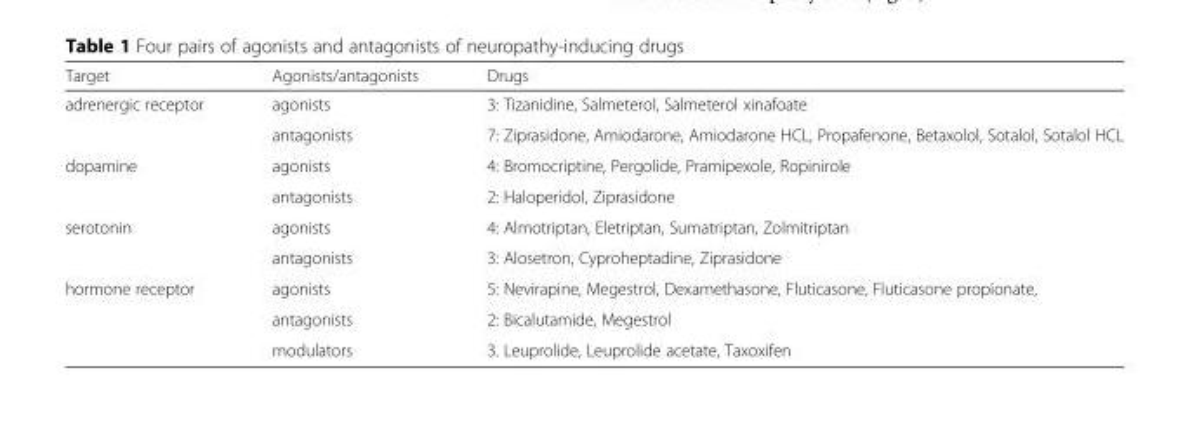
<table><thead><tr><td>Target</td><td>Agonists/antagonists</td><td>Drugs</td></tr></thead><tbody><tr><td rowspan="2">adrenergic receptor</td><td>agonists</td><td>3: Tizanidine, Salmeterol, Salmeterol xinafoate</td></tr><tr><td>antagonists</td><td>7: Ziprasidone, Amiodarone, Amiodarone HCL, Propafenone, Betaxolol, Sotalol, Sotalol HCL</td></tr><tr><td rowspan="2">dopamine</td><td>agonists</td><td>4: Bromocriptine, Pergolide, Pramipexole, Ropinirole</td></tr><tr><td>antagonists</td><td>2: Haloperidol, Ziprasidone</td></tr><tr><td rowspan="2">serotonin</td><td>agonists</td><td>4: Almotriptan, Eletriptan, Sumatriptan, Zolmitriptan</td></tr><tr><td>antagonists</td><td>3: Alosetron, Cyproheptadine, Ziprasidone</td></tr><tr><td rowspan="3">hormone receptor</td><td>agonists</td><td>5: Nevirapine, Megestrol, Dexamethasone, Fluticasone, Fluticasone propionate,</td></tr><tr><td>antagonists</td><td>2: Bicalutamide, Megestrol</td></tr><tr><td>modulators</td><td>3. Leuprolide, Leuprolide acetate, Taxoxifen</td></tr></tbody></table>